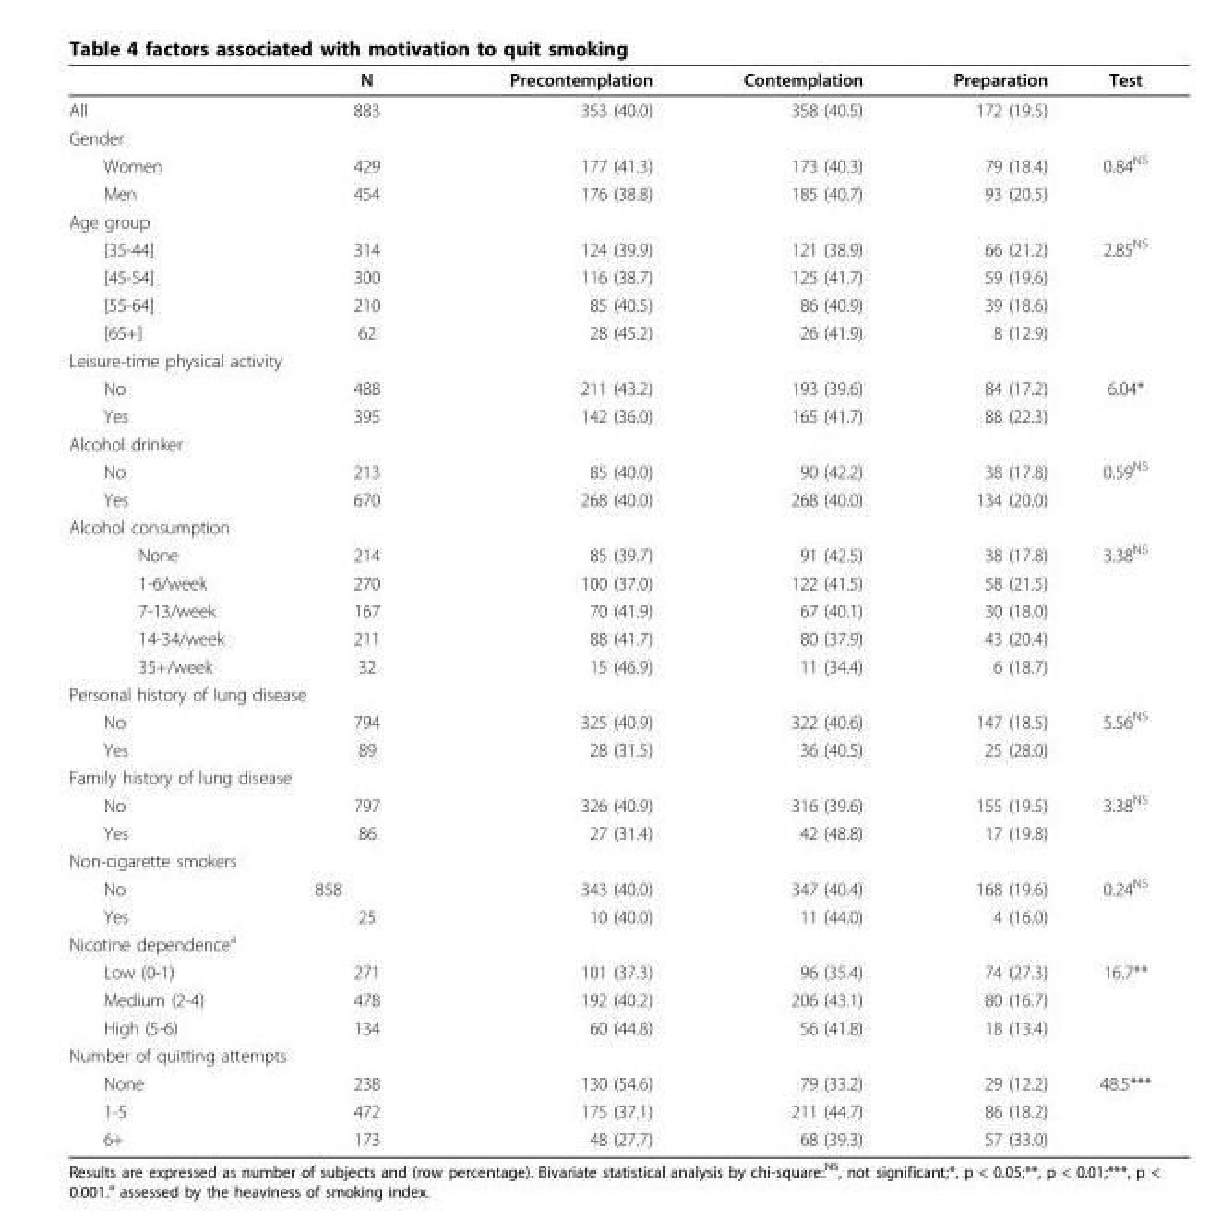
<table><thead><tr><td></td><td>N</td><td>Precontemplation</td><td>Contemplation</td><td>Preparation</td><td>Test</td></tr></thead><tbody><tr><td>All</td><td>883</td><td>353 (40.0)</td><td>358 (40.5)</td><td>172 (19.5)</td><td></td></tr><tr><td colspan="6">Gender</td></tr><tr><td>Women</td><td>429</td><td>177 (41.3)</td><td>173 (40.3)</td><td>79 (18.4)</td><td>0.84<sup>NS</sup></td></tr><tr><td>Men</td><td>454</td><td>176 (38.8)</td><td>185 (40.7)</td><td>93 (20.5)</td><td></td></tr><tr><td colspan="6">Age group</td></tr><tr><td>[35-44]</td><td>314</td><td>124 (39.9)</td><td>121 (38.9)</td><td>66 (21.2)</td><td>2.85<sup>NS</sup></td></tr><tr><td>[45-54]</td><td>300</td><td>116 (38.7)</td><td>125 (41.7)</td><td>59 (19.6)</td><td></td></tr><tr><td>[55-64]</td><td>210</td><td>85 (40.5)</td><td>86 (40.9)</td><td>39 (18.6)</td><td></td></tr><tr><td>[65+]</td><td>62</td><td>28 (45.2)</td><td>26 (41.9)</td><td>8 (12.9)</td><td></td></tr><tr><td colspan="6">Leisure-time physical activity</td></tr><tr><td>No</td><td>488</td><td>211 (43.2)</td><td>193 (39.6)</td><td>84 (17.2)</td><td>6.04*</td></tr><tr><td>Yes</td><td>395</td><td>142 (36.0)</td><td>165 (41.7)</td><td>88 (22.3)</td><td></td></tr><tr><td colspan="6">Alcohol drinker</td></tr><tr><td>No</td><td>213</td><td>85 (40.0)</td><td>90 (42.2)</td><td>38 (17.8)</td><td>0.59<sup>NS</sup></td></tr><tr><td>Yes</td><td>670</td><td>268 (40.0)</td><td>268 (40.0)</td><td>134 (20.0)</td><td></td></tr><tr><td colspan="6">Alcohol consumption</td></tr><tr><td>None</td><td>214</td><td>85 (39.7)</td><td>91 (42.5)</td><td>38 (17.8)</td><td>3.38<sup>NS</sup></td></tr><tr><td>1-6/week</td><td>270</td><td>100 (37.0)</td><td>122 (41.5)</td><td>58 (21.5)</td><td></td></tr><tr><td>7-13/week</td><td>167</td><td>70 (41.9)</td><td>67 (40.1)</td><td>30 (18.0)</td><td></td></tr><tr><td>14-34/week</td><td>211</td><td>88 (41.7)</td><td>80 (37.9)</td><td>43 (20.4)</td><td></td></tr><tr><td>35+/week</td><td>32</td><td>15 (46.9)</td><td>11 (34.4)</td><td>6 (18.7)</td><td></td></tr><tr><td colspan="6">Personal history of lung disease</td></tr><tr><td>No</td><td>794</td><td>325 (40.9)</td><td>322 (40.6)</td><td>147 (18.5)</td><td>5.56<sup>NS</sup></td></tr><tr><td>Yes</td><td>89</td><td>28 (31.5)</td><td>36 (40.5)</td><td>25 (28.0)</td><td></td></tr><tr><td colspan="6">Family history of lung disease</td></tr><tr><td>No</td><td>797</td><td>326 (40.9)</td><td>316 (39.6)</td><td>155 (19.5)</td><td>3.38<sup>NS</sup></td></tr><tr><td>Yes</td><td>86</td><td>27 (31.4)</td><td>42 (48.8)</td><td>17 (19.8)</td><td></td></tr><tr><td colspan="6">Non-cigarette smokers</td></tr><tr><td>No</td><td>858</td><td>343 (40.0)</td><td>347 (40.4)</td><td>168 (19.6)</td><td>0.24<sup>NS</sup></td></tr><tr><td>Yes</td><td>25</td><td>10 (40.0)</td><td>11 (44.0)</td><td>4 (16.0)</td><td></td></tr><tr><td colspan="6">Nicotine dependence<sup>a</sup></td></tr><tr><td>Low (0-1)</td><td>271</td><td>101 (37.3)</td><td>96 (35.4)</td><td>74 (27.3)</td><td>16.7**</td></tr><tr><td>Medium (2-4)</td><td>478</td><td>192 (40.2)</td><td>206 (43.1)</td><td>80 (16.7)</td><td></td></tr><tr><td>High (5-6)</td><td>134</td><td>60 (44.8)</td><td>56 (41.8)</td><td>18 (13.4)</td><td></td></tr><tr><td colspan="6">Number of quitting attempts</td></tr><tr><td>None</td><td>238</td><td>130 (54.6)</td><td>79 (33.2)</td><td>29 (12.2)</td><td>48.5***</td></tr><tr><td>1-5</td><td>472</td><td>175 (37.1)</td><td>211 (44.7)</td><td>86 (18.2)</td><td></td></tr><tr><td>6+</td><td>173</td><td>48 (27.7)</td><td>68 (39.3)</td><td>57 (33.0)</td><td></td></tr></tbody></table>